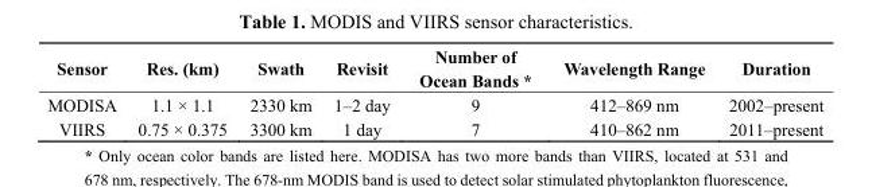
<table><thead><tr><td>Sensor</td><td>Res. (km)</td><td>Swath</td><td>Revisit</td><td>Number of Ocean Bands *</td><td>Wavelength Range</td><td>Duration</td></tr></thead><tbody><tr><td>MODISA</td><td>1.1 × 1.1</td><td>2330 km</td><td>1–2 day</td><td>9</td><td>412–869 nm</td><td>2002–present</td></tr><tr><td>VIIRS</td><td>0.75 × 0.375</td><td>3300 km</td><td>1 day</td><td>7</td><td>410–862 nm</td><td>2011–present</td></tr></tbody></table>